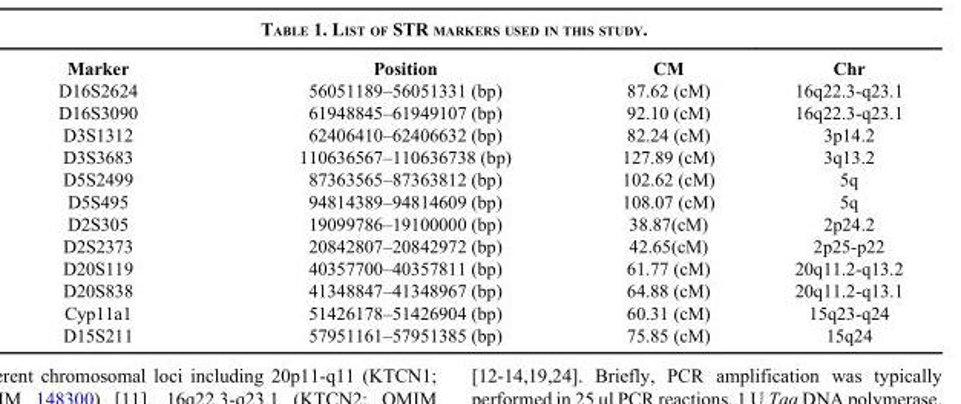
<table><thead><tr><td>Marker</td><td>Position</td><td>CM</td><td>Chr</td></tr></thead><tbody><tr><td>D16S2624</td><td>56051189–56051331 (bp)</td><td>87.62 (cM)</td><td>16q22.3-q23.1</td></tr><tr><td>D16S3090</td><td>61948845–61949107 (bp)</td><td>92.10 (cM)</td><td>16q22.3-q23.1</td></tr><tr><td>D3S1312</td><td>62406410–62406632 (bp)</td><td>82.24 (cM)</td><td>3p14.2</td></tr><tr><td>D3S3683</td><td>110636567–110636738 (bp)</td><td>127.89 (cM)</td><td>3q13.2</td></tr><tr><td>D5S2499</td><td>87363565–87363812 (bp)</td><td>102.62 (cM)</td><td>5q</td></tr><tr><td>D5S495</td><td>94814389–94814609 (bp)</td><td>108.07 (cM)</td><td>5q</td></tr><tr><td>D2S305</td><td>19099786–19100000 (bp)</td><td>38.87(cM)</td><td>2p24.2</td></tr><tr><td>D2S2373</td><td>20842807–20842972 (bp)</td><td>42.65(cM)</td><td>2p25-p22</td></tr><tr><td>D20S119</td><td>40357700–40357811 (bp)</td><td>61.77 (cM)</td><td>20q11.2-q13.2</td></tr><tr><td>D20S838</td><td>41348847–41348967 (bp)</td><td>64.88 (cM)</td><td>20q11.2-q13.1</td></tr><tr><td>Cyp11a1</td><td>51426178–51426904 (bp)</td><td>60.31 (cM)</td><td>15q23-q24</td></tr><tr><td>D15S211</td><td>57951161–57951385 (bp)</td><td>75.85 (cM)</td><td>15q24</td></tr></tbody></table>